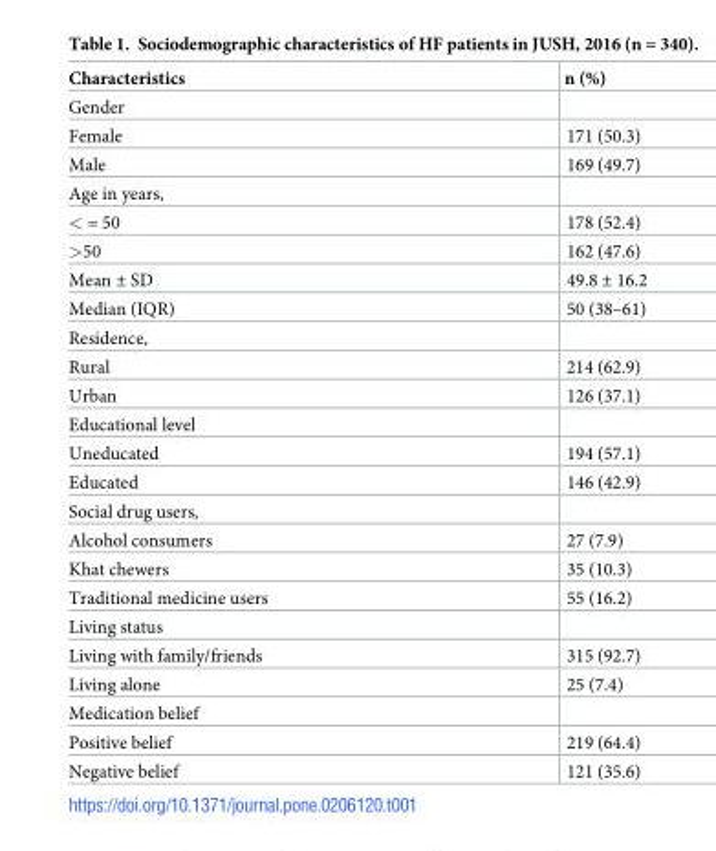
<table><thead><tr><td>Characteristics</td><td>n (%)</td></tr></thead><tbody><tr><td colspan="2">Gender</td></tr><tr><td>Female</td><td>171 (50.3)</td></tr><tr><td>Male</td><td>169 (49.7)</td></tr><tr><td colspan="2">Age in years,</td></tr><tr><td>&lt; = 50</td><td>178 (52.4)</td></tr><tr><td>&gt;50</td><td>162 (47.6)</td></tr><tr><td>Mean ± SD</td><td>49.8 ± 16.2</td></tr><tr><td>Median (IQR)</td><td>50 (38–61)</td></tr><tr><td colspan="2">Residence,</td></tr><tr><td>Rural</td><td>214 (62.9)</td></tr><tr><td>Urban</td><td>126 (37.1)</td></tr><tr><td colspan="2">Educational level</td></tr><tr><td>Uneducated</td><td>194 (57.1)</td></tr><tr><td>Educated</td><td>146 (42.9)</td></tr><tr><td colspan="2">Social drug users,</td></tr><tr><td>Alcohol consumers</td><td>27 (7.9)</td></tr><tr><td>Khat chewers</td><td>35 (10.3)</td></tr><tr><td>Traditional medicine users</td><td>55 (16.2)</td></tr><tr><td colspan="2">Living status</td></tr><tr><td>Living with family/friends</td><td>315 (92.7)</td></tr><tr><td>Living alone</td><td>25 (7.4)</td></tr><tr><td colspan="2">Medication belief</td></tr><tr><td>Positive belief</td><td>219 (64.4)</td></tr><tr><td>Negative belief</td><td>121 (35.6)</td></tr></tbody></table>